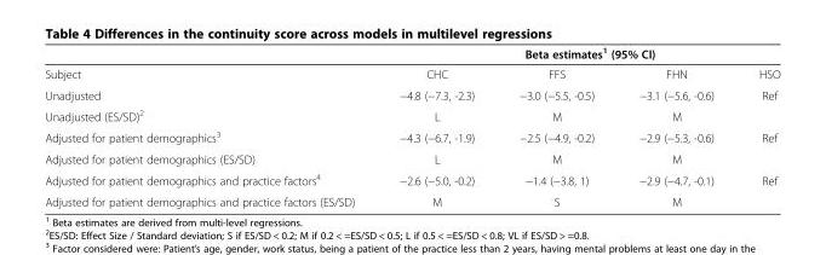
<table><thead><tr><td rowspan="2">Subject</td><td colspan="4">Beta estimates<sup>1</sup> (95% CI)</td></tr><tr><td>CHC</td><td>FFS</td><td>FHN</td><td>HSO</td></tr></thead><tbody><tr><td>Unadjusted</td><td>−4.8 (−7.3, -2.3)</td><td>−3.0 (−5.5, -0.5)</td><td>−3.1 (−5.6, -0.6)</td><td>Ref</td></tr><tr><td>Unadjusted (ES/SD)<sup>2</sup></td><td>L</td><td>M</td><td>M</td><td></td></tr><tr><td>Adjusted for patient demographics<sup>3</sup></td><td>−4.3 (−6.7, -1.9)</td><td>−2.5 (−4.9, -0.2)</td><td>−2.9 (−5.3, -0.6)</td><td>Ref</td></tr><tr><td>Adjusted for patient demographics (ES/SD)</td><td>L</td><td>M</td><td>M</td><td></td></tr><tr><td>Adjusted for patient demographics and practice factors<sup>4</sup></td><td>−2.6 (−5.0, -0.2)</td><td>−1.4 (−3.8, 1)</td><td>−2.9 (−4.7, -0.1)</td><td>Ref</td></tr><tr><td>Adjusted for patient demographics and practice factors (ES/SD)</td><td>M</td><td>S</td><td>M</td><td></td></tr></tbody></table>